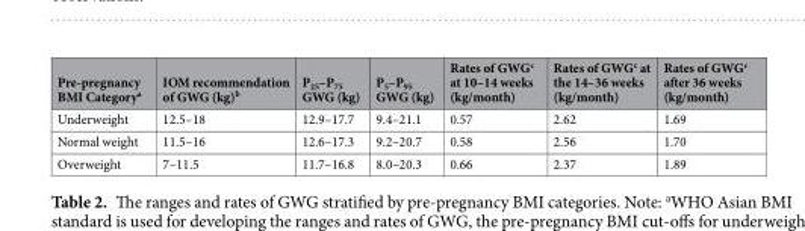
<table><thead><tr><td>Pre-pregnancy BMI Category<sup>a</sup></td><td>IOM recommendation of GWG (kg)<sup>b</sup></td><td>P<sub>25</sub>–P<sub>75</sub> GWG (kg)</td><td>P<sub>5</sub>–P<sub>95</sub> GWG (kg)</td><td>Rates of GWG<sup>c</sup> at 10–14 weeks (kg/month)</td><td>Rates of GWG<sup>c</sup> at the 14–36 weeks (kg/month)</td><td>Rates of GWG<sup>c</sup> after 36 weeks (kg/month)</td></tr></thead><tbody><tr><td>Underweight</td><td>12.5–18</td><td>12.9–17.7</td><td>9.4–21.1</td><td>0.57</td><td>2.62</td><td>1.69</td></tr><tr><td>Normal weight</td><td>11.5–16</td><td>12.6–17.3</td><td>9.2–20.7</td><td>0.58</td><td>2.56</td><td>1.70</td></tr><tr><td>Overweight</td><td>7–11.5</td><td>11.7–16.8</td><td>8.0–20.3</td><td>0.66</td><td>2.37</td><td>1.89</td></tr></tbody></table>